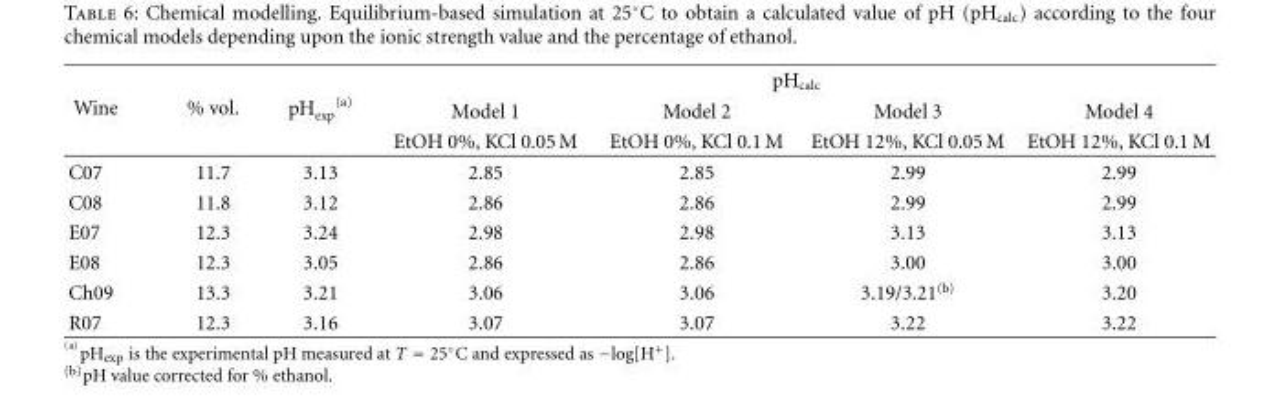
<table><thead><tr><td rowspan="3">Wine</td><td rowspan="3">% vol.</td><td rowspan="3">pH<sub>exp</sub> <sup>(a)</sup></td><td colspan="4">pH<sub>calc</sub></td></tr><tr><td rowspan="2">Model 1 EtOH 0%, KCl 0.05 M</td><td rowspan="2">Model 2 EtOH 0%, KCl 0.1 M</td><td rowspan="2">Model 3 EtOH 12%, KCl 0.05 M</td><td rowspan="2">Model 4 EtOH 12%, KCl 0.1 M</td></tr><tr></tr></thead><tbody><tr><td>C07</td><td>11.7</td><td>3.13</td><td>2.85</td><td>2.85</td><td>2.99</td><td>2.99</td></tr><tr><td>C08</td><td>11.8</td><td>3.12</td><td>2.86</td><td>2.86</td><td>2.99</td><td>2.99</td></tr><tr><td>E07</td><td>12.3</td><td>3.24</td><td>2.98</td><td>2.98</td><td>3.13</td><td>3.13</td></tr><tr><td>E08</td><td>12.3</td><td>3.05</td><td>2.86</td><td>2.86</td><td>3.00</td><td>3.00</td></tr><tr><td>Ch09</td><td>13.3</td><td>3.21</td><td>3.06</td><td>3.06</td><td>3.19/3.21<sup>(b)</sup></td><td>3.20</td></tr><tr><td>R07</td><td>12.3</td><td>3.16</td><td>3.07</td><td>3.07</td><td>3.22</td><td>3.22</td></tr></tbody></table>